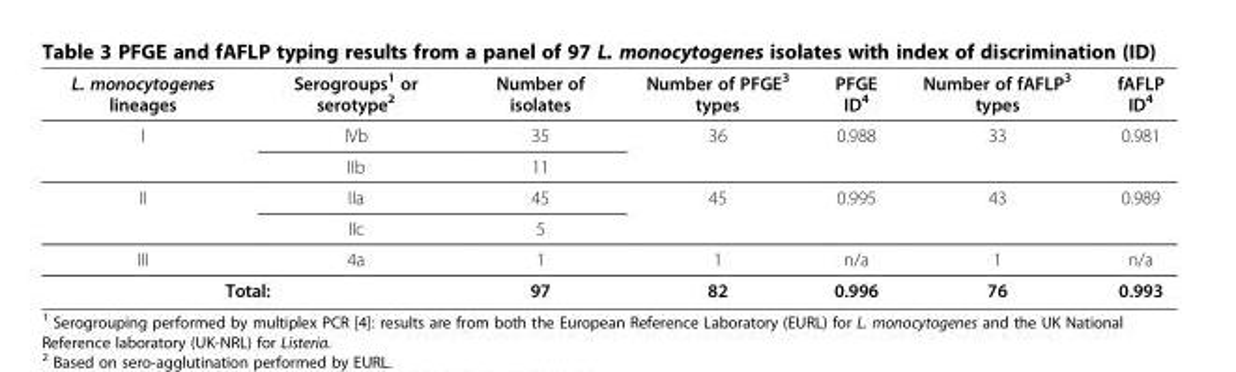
<table><thead><tr><td>L. monocytogenes lineages</td><td>Serogroups<sup>1</sup> or serotype<sup>2</sup></td><td>Number of isolates</td><td>Number of PFGE<sup>3</sup> types</td><td>PFGE ID<sup>4</sup></td><td>Number of fAFLP<sup>3</sup> types</td><td>fAFLP ID<sup>4</sup></td></tr></thead><tbody><tr><td rowspan="2">I</td><td>IVb</td><td>35</td><td rowspan="2">36</td><td rowspan="2">0.988</td><td rowspan="2">33</td><td rowspan="2">0.981</td></tr><tr><td>IIb</td><td>11</td></tr><tr><td rowspan="2">II</td><td>IIa</td><td>45</td><td rowspan="2">45</td><td rowspan="2">0.995</td><td rowspan="2">43</td><td rowspan="2">0.989</td></tr><tr><td>IIc</td><td>5</td></tr><tr><td>III</td><td>4a</td><td>1</td><td>1</td><td>n/a</td><td>1</td><td>n/a</td></tr><tr><td colspan="2">Total:</td><td>97</td><td>82</td><td>0.996</td><td>76</td><td>0.993</td></tr></tbody></table>